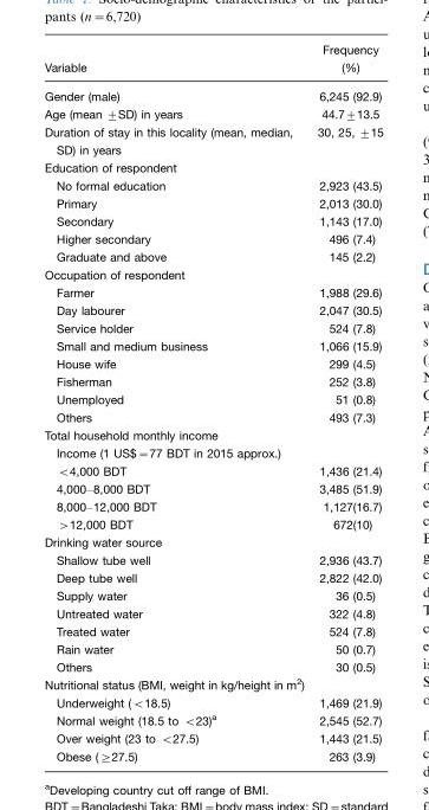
<table><thead><tr><td>Variable</td><td>Frequency (%)</td></tr></thead><tbody><tr><td>Gender (male)</td><td>6,245 (92.9)</td></tr><tr><td>Age (mean ±SD) in years</td><td>44.7±13.5</td></tr><tr><td>Duration of stay in this locality (mean, median, SD) in years</td><td>30, 25, ±15</td></tr><tr><td colspan="2">Education of respondent</td></tr><tr><td>No formal education</td><td>2,923 (43.5)</td></tr><tr><td>Primary</td><td>2,013 (30.0)</td></tr><tr><td>Secondary</td><td>1,143 (17.0)</td></tr><tr><td>Higher secondary</td><td>496 (7.4)</td></tr><tr><td>Graduate and above</td><td>145 (2.2)</td></tr><tr><td colspan="2">Occupation of respondent</td></tr><tr><td>Farmer</td><td>1,988 (29.6)</td></tr><tr><td>Day labourer</td><td>2,047 (30.5)</td></tr><tr><td>Service holder</td><td>524 (7.8)</td></tr><tr><td>Small and medium business</td><td>1,066 (15.9)</td></tr><tr><td>House wife</td><td>299 (4.5)</td></tr><tr><td>Fisherman</td><td>252 (3.8)</td></tr><tr><td>Unemployed</td><td>51 (0.8)</td></tr><tr><td>Others</td><td>493 (7.3)</td></tr><tr><td colspan="2">Total household monthly income</td></tr><tr><td colspan="2">Income (1 US$=77 BDT in 2015 approx.)</td></tr><tr><td>&lt;4,000 BDT</td><td>1,436 (21.4)</td></tr><tr><td>4,000–8,000 BDT</td><td>3,485 (51.9)</td></tr><tr><td>8,000–12,000 BDT</td><td>1,127(16.7)</td></tr><tr><td>&gt;12,000 BDT</td><td>672(10)</td></tr><tr><td colspan="2">Drinking water source</td></tr><tr><td>Shallow tube well</td><td>2,936 (43.7)</td></tr><tr><td>Deep tube well</td><td>2,822 (42.0)</td></tr><tr><td>Supply water</td><td>36 (0.5)</td></tr><tr><td>Untreated water</td><td>322 (4.8)</td></tr><tr><td>Treated water</td><td>524 (7.8)</td></tr><tr><td>Rain water</td><td>50 (0.7)</td></tr><tr><td>Others</td><td>30 (0.5)</td></tr><tr><td colspan="2">Nutritional status (BMI, weight in kg/height in m<sup>2</sup>)</td></tr><tr><td>Underweight (&lt;18.5)</td><td>1,469 (21.9)</td></tr><tr><td>Normal weight (18.5 to &lt;23)<sup>a</sup></td><td>2,545 (52.7)</td></tr><tr><td>Over weight (23 to &lt;27.5)</td><td>1,443 (21.5)</td></tr><tr><td>Obese (≥27.5)</td><td>263 (3.9)</td></tr></tbody></table>